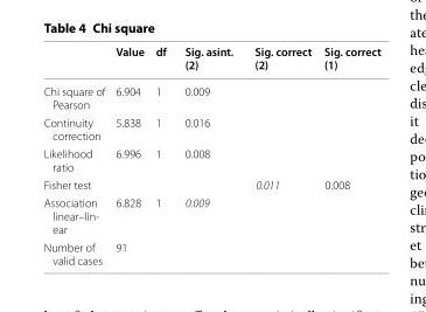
<table><thead><tr><td></td><td>Value</td><td>df</td><td>Sig. asint. (2)</td><td>Sig. correct (2)</td><td>Sig. correct (1)</td></tr></thead><tbody><tr><td>Chi square of Pearson</td><td>6.904</td><td>1</td><td>0.009</td><td></td><td></td></tr><tr><td>Continuity correction</td><td>5.838</td><td>1</td><td>0.016</td><td></td><td></td></tr><tr><td>Likelihood ratio</td><td>6.996</td><td>1</td><td>0.008</td><td></td><td></td></tr><tr><td>Fisher test</td><td></td><td></td><td></td><td>0.011</td><td>0.008</td></tr><tr><td>Association linear–lin- ear</td><td>6.828</td><td>1</td><td>0.009</td><td></td><td></td></tr><tr><td>Number of valid cases</td><td>91</td><td></td><td></td><td></td><td></td></tr></tbody></table>